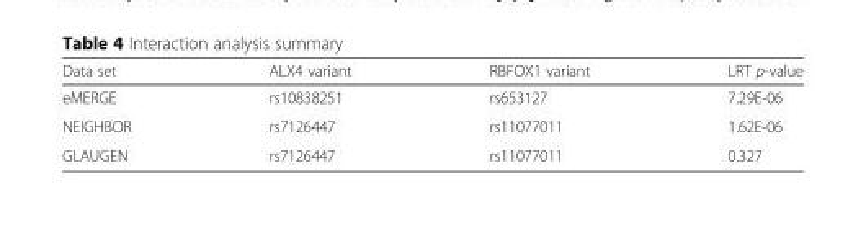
<table><thead><tr><td>Data set</td><td>ALX4 variant</td><td>RBFOX1 variant</td><td>LRT p-value</td></tr></thead><tbody><tr><td>eMERGE</td><td>rs10838251</td><td>rs653127</td><td>7.29E-06</td></tr><tr><td>NEIGHBOR</td><td>rs7126447</td><td>rs11077011</td><td>1.62E-06</td></tr><tr><td>GLAUGEN</td><td>rs7126447</td><td>rs11077011</td><td>0.327</td></tr></tbody></table>